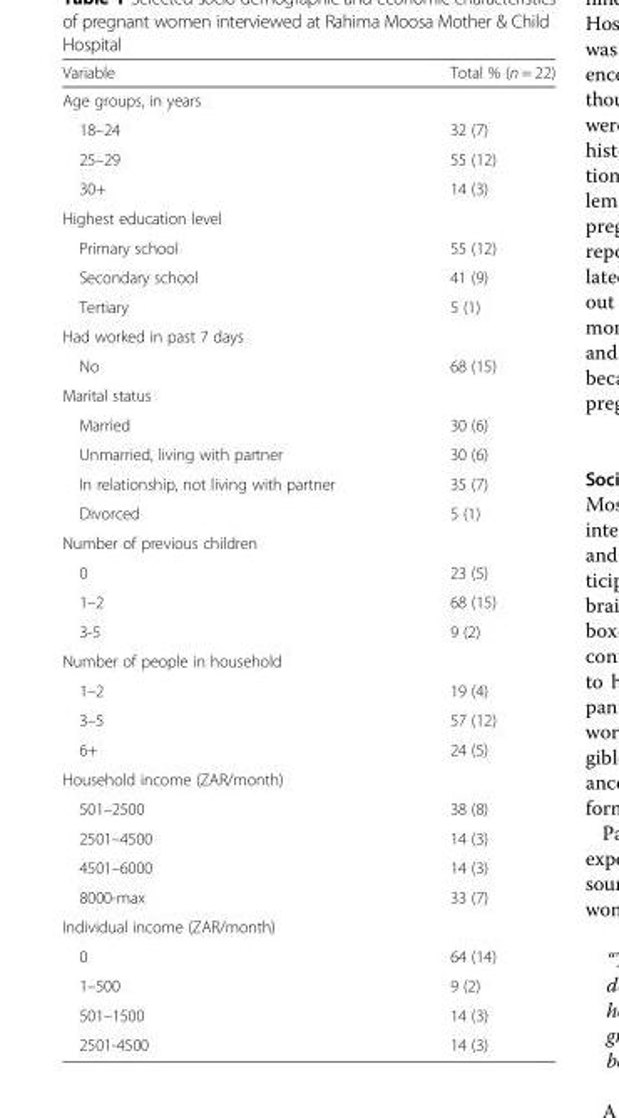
<table><thead><tr><td>Variable</td><td>Total % (n = 22)</td></tr></thead><tbody><tr><td colspan="2">Age groups, in years</td></tr><tr><td>18–24</td><td>32 (7)</td></tr><tr><td>25–29</td><td>55 (12)</td></tr><tr><td>30+</td><td>14 (3)</td></tr><tr><td colspan="2">Highest education level</td></tr><tr><td>Primary school</td><td>55 (12)</td></tr><tr><td>Secondary school</td><td>41 (9)</td></tr><tr><td>Tertiary</td><td>5 (1)</td></tr><tr><td colspan="2">Had worked in past 7 days</td></tr><tr><td>No</td><td>68 (15)</td></tr><tr><td colspan="2">Marital status</td></tr><tr><td>Married</td><td>30 (6)</td></tr><tr><td>Unmarried, living with partner</td><td>30 (6)</td></tr><tr><td>In relationship, not living with partner</td><td>35 (7)</td></tr><tr><td>Divorced</td><td>5 (1)</td></tr><tr><td colspan="2">Number of previous children</td></tr><tr><td>0</td><td>23 (5)</td></tr><tr><td>1–2</td><td>68 (15)</td></tr><tr><td>3-5</td><td>9 (2)</td></tr><tr><td colspan="2">Number of people in household</td></tr><tr><td>1–2</td><td>19 (4)</td></tr><tr><td>3–5</td><td>57 (12)</td></tr><tr><td>6+</td><td>24 (5)</td></tr><tr><td colspan="2">Household income (ZAR/month)</td></tr><tr><td>501–2500</td><td>38 (8)</td></tr><tr><td>2501–4500</td><td>14 (3)</td></tr><tr><td>4501–6000</td><td>14 (3)</td></tr><tr><td>8000-max</td><td>33 (7)</td></tr><tr><td colspan="2">Individual income (ZAR/month)</td></tr><tr><td>0</td><td>64 (14)</td></tr><tr><td>1–500</td><td>9 (2)</td></tr><tr><td>501–1500</td><td>14 (3)</td></tr><tr><td>2501-4500</td><td>14 (3)</td></tr></tbody></table>